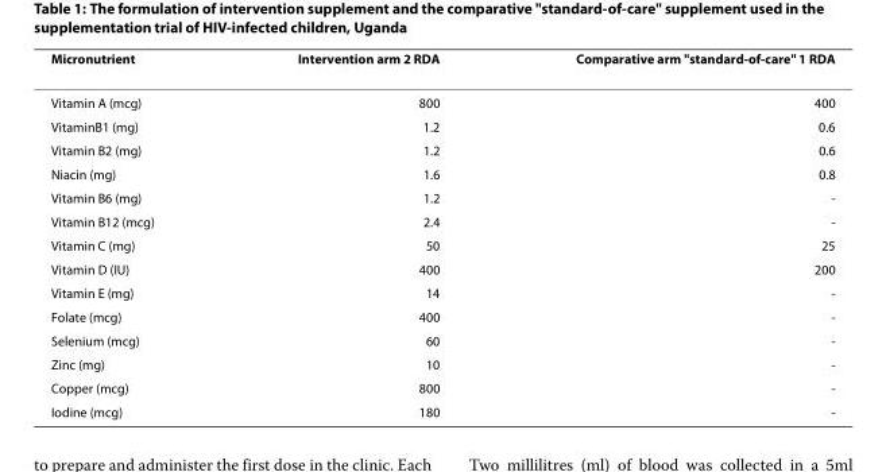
<table><thead><tr><td>Micronutrient</td><td>Intervention arm 2 RDA</td><td>Comparative arm &quot;standard-of-care&quot; 1 RDA</td></tr></thead><tbody><tr><td>Vitamin A (mcg)</td><td>800</td><td>400</td></tr><tr><td>VitaminB1 (mg)</td><td>1.2</td><td>0.6</td></tr><tr><td>Vitamin B2 (mg)</td><td>1.2</td><td>0.6</td></tr><tr><td>Niacin (mg)</td><td>1.6</td><td>0.8</td></tr><tr><td>Vitamin B6 (mg)</td><td>1.2</td><td>-</td></tr><tr><td>Vitamin B12 (mcg)</td><td>2.4</td><td>-</td></tr><tr><td>Vitamin C (mg)</td><td>50</td><td>25</td></tr><tr><td>Vitamin D (IU)</td><td>400</td><td>200</td></tr><tr><td>Vitamin E (mg)</td><td>14</td><td>-</td></tr><tr><td>Folate (mcg)</td><td>400</td><td>-</td></tr><tr><td>Selenium (mcg)</td><td>60</td><td>-</td></tr><tr><td>Zinc (mg)</td><td>10</td><td>-</td></tr><tr><td>Copper (mcg)</td><td>800</td><td>-</td></tr><tr><td>Iodine (mcg)</td><td>180</td><td>-</td></tr></tbody></table>